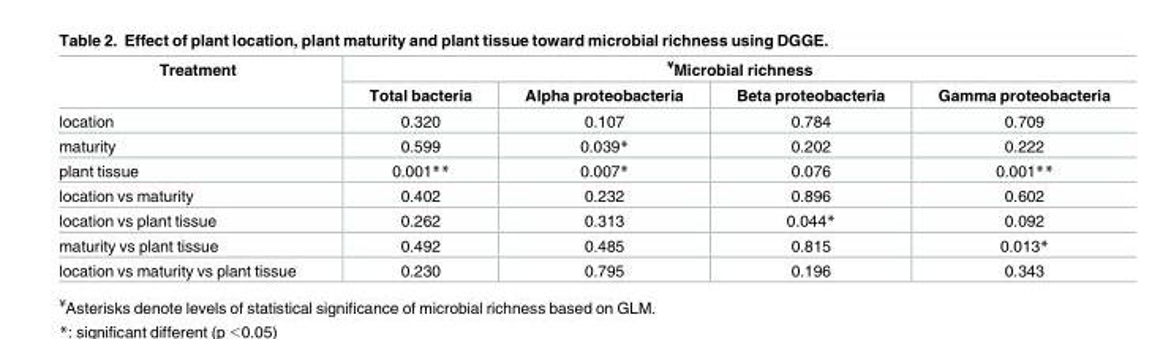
<table><thead><tr><td rowspan="2">Treatment</td><td colspan="4"><sup>¥</sup>Microbial richness</td></tr><tr><td>Total bacteria</td><td>Alpha proteobacteria</td><td>Beta proteobacteria</td><td>Gamma proteobacteria</td></tr></thead><tbody><tr><td>location</td><td>0.320</td><td>0.107</td><td>0.784</td><td>0.709</td></tr><tr><td>maturity</td><td>0.599</td><td>0.039*</td><td>0.202</td><td>0.222</td></tr><tr><td>plant tissue</td><td>0.001**</td><td>0.007*</td><td>0.076</td><td>0.001**</td></tr><tr><td>location vs maturity</td><td>0.402</td><td>0.232</td><td>0.896</td><td>0.602</td></tr><tr><td>location vs plant tissue</td><td>0.262</td><td>0.313</td><td>0.044*</td><td>0.092</td></tr><tr><td>maturity vs plant tissue</td><td>0.492</td><td>0.485</td><td>0.815</td><td>0.013*</td></tr><tr><td>location vs maturity vs plant tissue</td><td>0.230</td><td>0.795</td><td>0.196</td><td>0.343</td></tr></tbody></table>